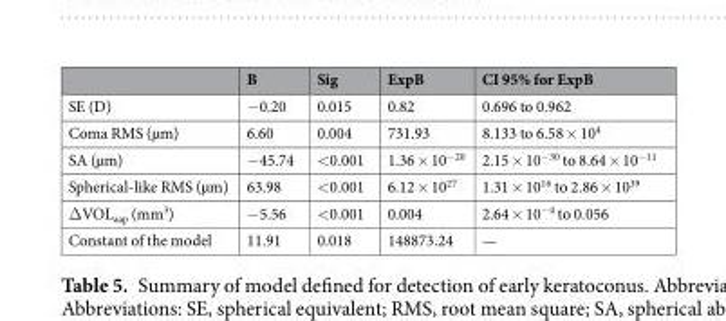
<table><thead><tr><td></td><td>B</td><td>Sig</td><td>ExpB</td><td>CI 95% for ExpB</td></tr></thead><tbody><tr><td>SE (D)</td><td>−0.20</td><td>0.015</td><td>0.82</td><td>0.696 to 0.962</td></tr><tr><td>Coma RMS (µm)</td><td>6.60</td><td>0.004</td><td>731.93</td><td>8.133 to 6.58 × 10<sup>4</sup></td></tr><tr><td>SA (µm)</td><td>−45.74</td><td>&lt;0.001</td><td>1.36 × 10<sup>−20</sup></td><td>2.15 × 10<sup>−30</sup> to 8.64 × 10<sup>−11</sup></td></tr><tr><td>Spherical-like RMS (µm)</td><td>63.98</td><td>&lt;0.001</td><td>6.12 × 10<sup>27</sup></td><td>1.31 × 10<sup>16</sup> to 2.86 × 10<sup>39</sup></td></tr><tr><td>ΔVOL<sub>aap</sub> (mm<sup>3</sup>)</td><td>−5.56</td><td>&lt;0.001</td><td>0.004</td><td>2.64 × 10<sup>−4</sup> to 0.056</td></tr><tr><td>Constant of the model</td><td>11.91</td><td>0.018</td><td>148873.24</td><td>—</td></tr></tbody></table>